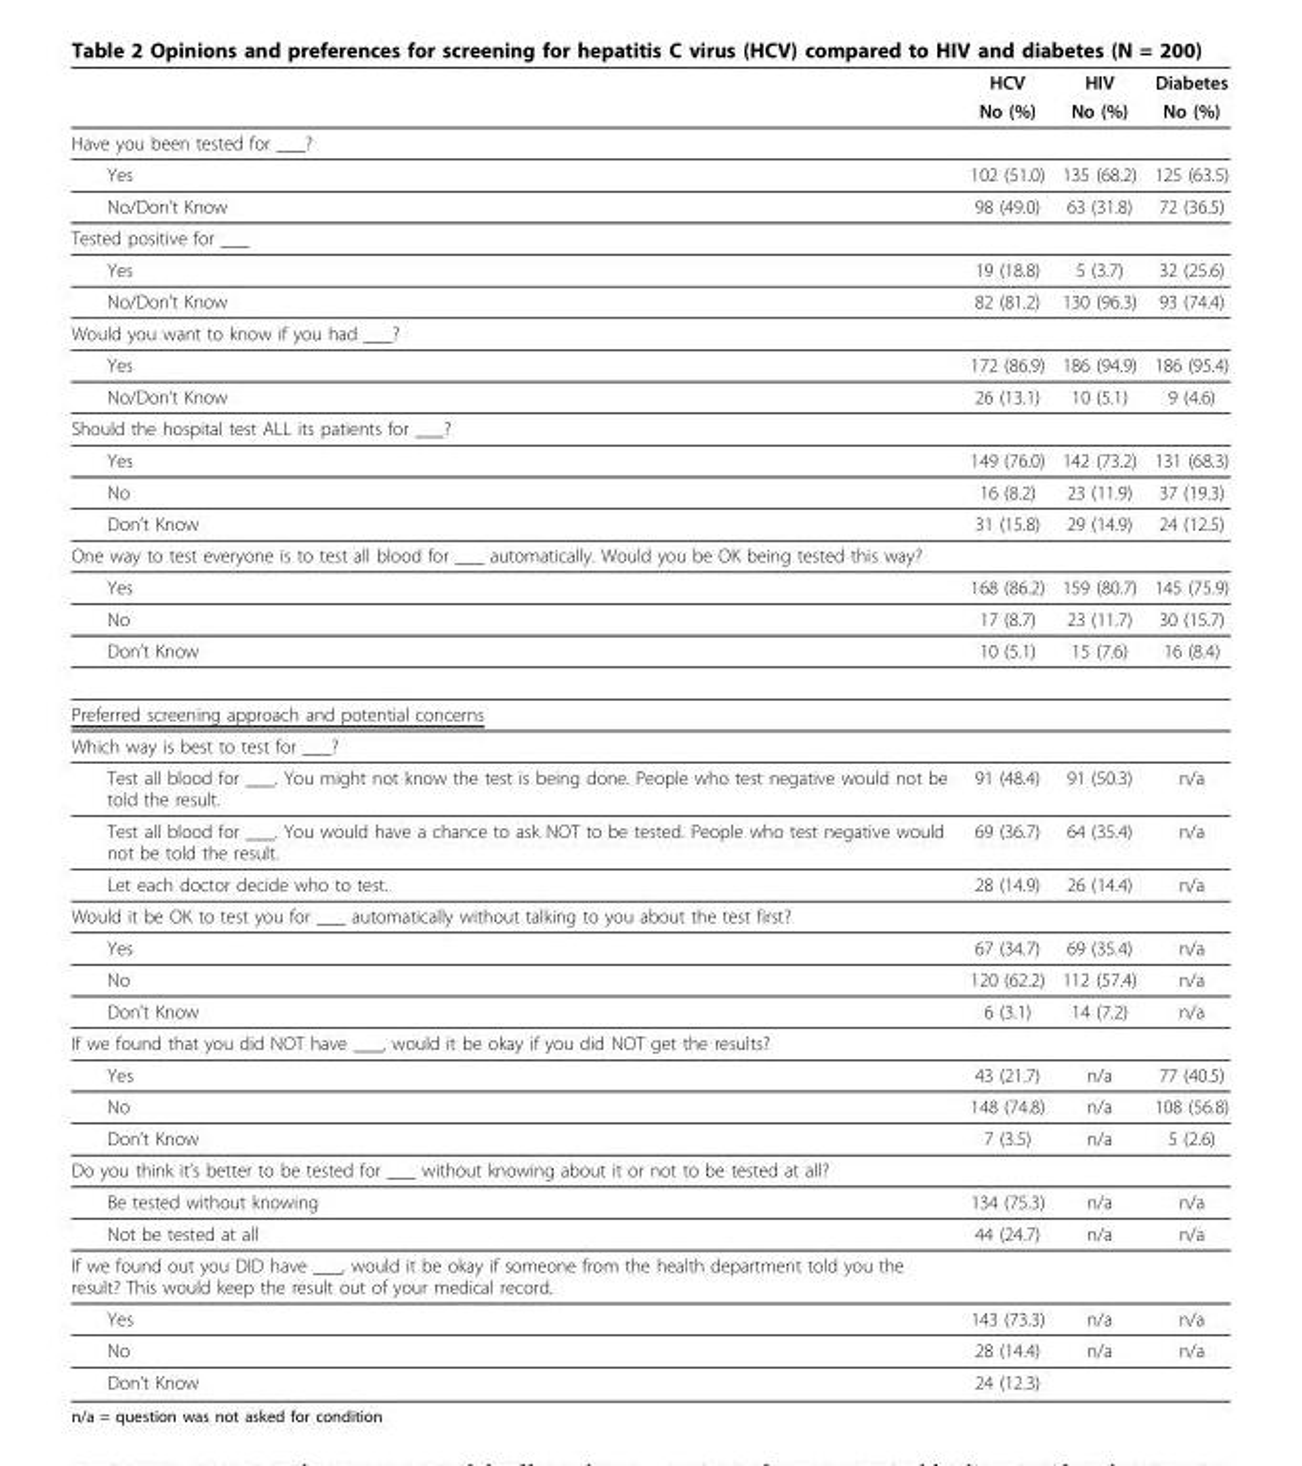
<table><thead><tr><td rowspan="2"></td><td rowspan="2">HCV No (%)</td><td rowspan="2">HIV No (%)</td><td rowspan="2">Diabetes No (%)</td></tr><tr></tr></thead><tbody><tr><td colspan="4">Have you been tested for ___?</td></tr><tr><td>Yes</td><td>102 (51.0)</td><td>135 (68.2)</td><td>125 (63.5)</td></tr><tr><td>No/Don’t Know</td><td>98 (49.0)</td><td>63 (31.8)</td><td>72 (36.5)</td></tr><tr><td colspan="4">Tested positive for ___</td></tr><tr><td>Yes</td><td>19 (18.8)</td><td>5 (3.7)</td><td>32 (25.6)</td></tr><tr><td>No/Don’t Know</td><td>82 (81.2)</td><td>130 (96.3)</td><td>93 (74.4)</td></tr><tr><td colspan="4">Would you want to know if you had ___?</td></tr><tr><td>Yes</td><td>172 (86.9)</td><td>186 (94.9)</td><td>186 (95.4)</td></tr><tr><td>No/Don’t Know</td><td>26 (13.1)</td><td>10 (5.1)</td><td>9 (4.6)</td></tr><tr><td colspan="4">Should the hospital test ALL its patients for ___?</td></tr><tr><td>Yes</td><td>149 (76.0)</td><td>142 (73.2)</td><td>131 (68.3)</td></tr><tr><td>No</td><td>16 (8.2)</td><td>23 (11.9)</td><td>37 (19.3)</td></tr><tr><td>Don’t Know</td><td>31 (15.8)</td><td>29 (14.9)</td><td>24 (12.5)</td></tr><tr><td colspan="4">One way to test everyone is to test all blood for ___ automatically. Would you be OK being tested this way?</td></tr><tr><td>Yes</td><td>168 (86.2)</td><td>159 (80.7)</td><td>145 (75.9)</td></tr><tr><td>No</td><td>17 (8.7)</td><td>23 (11.7)</td><td>30 (15.7)</td></tr><tr><td>Don’t Know</td><td>10 (5.1)</td><td>15 (7.6)</td><td>16 (8.4)</td></tr><tr><td colspan="4">Preferred screening approach and potential concerns</td></tr><tr><td colspan="4">Which way is best to test for ___?</td></tr><tr><td>Test all blood for ___. You might not know the test is being done. People who test negative would not be told the result.</td><td>91 (48.4)</td><td>91 (50.3)</td><td>n/a</td></tr><tr><td>Test all blood for ___. You would have a chance to ask NOT to be tested. People who test negative would not be told the result.</td><td>69 (36.7)</td><td>64 (35.4)</td><td>n/a</td></tr><tr><td>Let each doctor decide who to test.</td><td>28 (14.9)</td><td>26 (14.4)</td><td>n/a</td></tr><tr><td colspan="4">Would it be OK to test you for ___ automatically without talking to you about the test first?</td></tr><tr><td>Yes</td><td>67 (34.7)</td><td>69 (35.4)</td><td>n/a</td></tr><tr><td>No</td><td>120 (62.2)</td><td>112 (57.4)</td><td>n/a</td></tr><tr><td>Don’t Know</td><td>6 (3.1)</td><td>14 (7.2)</td><td>n/a</td></tr><tr><td colspan="4">If we found that you did NOT have ___, would it be okay if you did NOT get the results?</td></tr><tr><td>Yes</td><td>43 (21.7)</td><td>n/a</td><td>77 (40.5)</td></tr><tr><td>No</td><td>148 (74.8)</td><td>n/a</td><td>108 (56.8)</td></tr><tr><td>Don’t Know</td><td>7 (3.5)</td><td>n/a</td><td>5 (2.6)</td></tr><tr><td colspan="4">Do you think it’s better to be tested for ___ without knowing about it or not to be tested at all?</td></tr><tr><td>Be tested without knowing</td><td>134 (75.3)</td><td>n/a</td><td>n/a</td></tr><tr><td>Not be tested at all</td><td>44 (24.7)</td><td>n/a</td><td>n/a</td></tr><tr><td colspan="4">If we found out you DID have ___, would it be okay if someone from the health department told you the result? This would keep the result out of your medical record.</td></tr><tr><td>Yes</td><td>143 (73.3)</td><td>n/a</td><td>n/a</td></tr><tr><td>No</td><td>28 (14.4)</td><td>n/a</td><td>n/a</td></tr><tr><td>Don’t Know</td><td>24 (12.3)</td><td></td><td></td></tr></tbody></table>